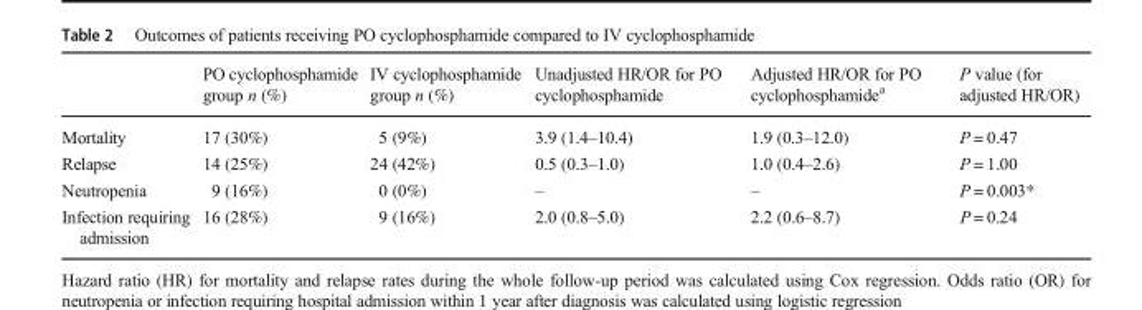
<table><thead><tr><td></td><td>PO cyclophosphamide group n (%)</td><td>IV cyclophosphamide group n (%)</td><td>Unadjusted HR/OR for PO cyclophosphamide</td><td>Adjusted HR/OR for PO cyclophosphamide<sup>a</sup></td><td>P value (for adjusted HR/OR)</td></tr></thead><tbody><tr><td>Mortality</td><td>17 (30%)</td><td>5 (9%)</td><td>3.9 (1.4–10.4)</td><td>1.9 (0.3–12.0)</td><td>P = 0.47</td></tr><tr><td>Relapse</td><td>14 (25%)</td><td>24 (42%)</td><td>0.5 (0.3–1.0)</td><td>1.0 (0.4–2.6)</td><td>P = 1.00</td></tr><tr><td>Neutropenia</td><td>9 (16%)</td><td>0 (0%)</td><td>–</td><td>–</td><td>P = 0.003*</td></tr><tr><td>Infection requiring admission</td><td>16 (28%)</td><td>9 (16%)</td><td>2.0 (0.8–5.0)</td><td>2.2 (0.6–8.7)</td><td>P = 0.24</td></tr></tbody></table>